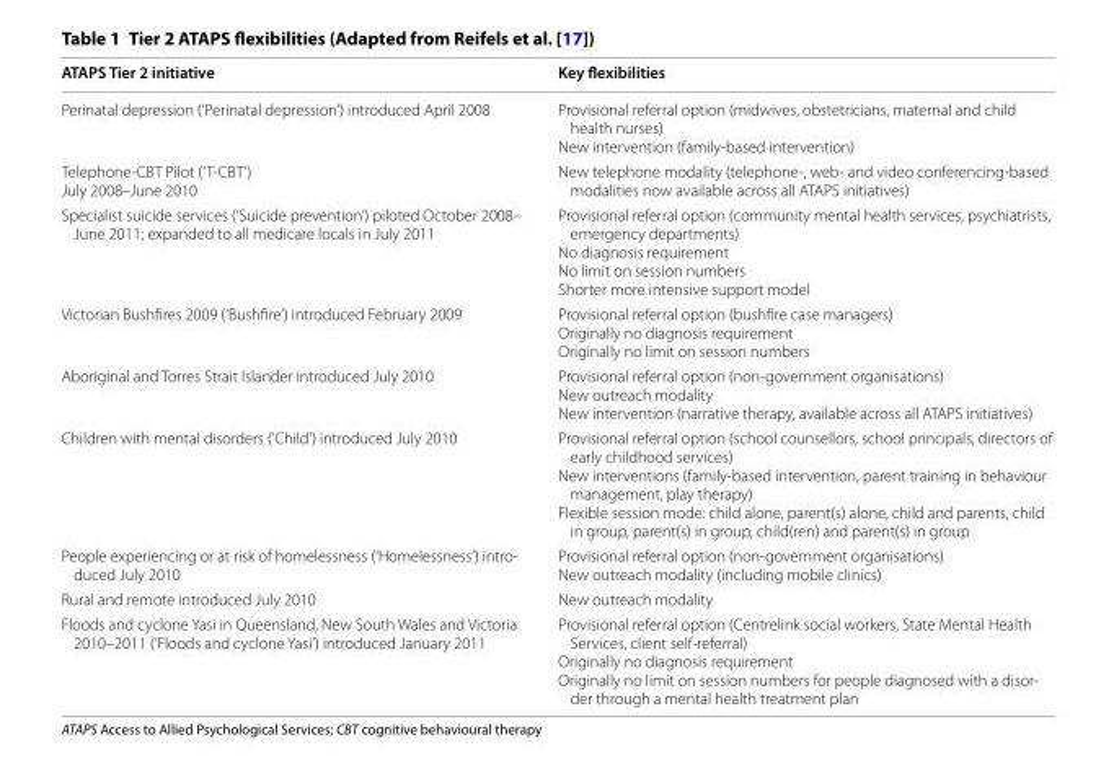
<table><thead><tr><td>ATAPS Tier 2 initiative</td><td>Key flexibilities</td></tr></thead><tbody><tr><td>Perinatal depression (‘Perinatal depression’) introduced April 2008</td><td>Provisional referral option (midwives, obstetricians, maternal and child health nurses) New intervention (family-based intervention)</td></tr><tr><td>Telephone-CBT Pilot (‘T-CBT’) July 2008–June 2010</td><td>New telephone modality (telephone-, web- and video conferencing-based modalities now available across all ATAPS initiatives)</td></tr><tr><td>Specialist suicide services (‘Suicide prevention’) piloted October 2008– June 2011; expanded to all medicare locals in July 2011</td><td>Provisional referral option (community mental health services, psychiatrists, emergency departments) No diagnosis requirement No limit on session numbers Shorter more intensive support model</td></tr><tr><td>Victorian Bushfires 2009 (‘Bushfire’) introduced February 2009</td><td>Provisional referral option (bushfire case managers) Originally no diagnosis requirement Originally no limit on session numbers</td></tr><tr><td>Aboriginal and Torres Strait Islander introduced July 2010</td><td>Provisional referral option (non-government organisations) New outreach modality New intervention (narrative therapy, available across all ATAPS initiatives)</td></tr><tr><td>Children with mental disorders (‘Child’) introduced July 2010</td><td>Provisional referral option (school counsellors, school principals, directors of early childhood services) New interventions (family-based intervention, parent training in behaviour management, play therapy) Flexible session mode: child alone, parent(s) alone, child and parents, child in group, parent(s) in group, child(ren) and parent(s) in group</td></tr><tr><td>People experiencing or at risk of homelessness (‘Homelessness’) intro- duced July 2010</td><td>Provisional referral option (non-government organisations) New outreach modality (including mobile clinics)</td></tr><tr><td>Rural and remote introduced July 2010</td><td>New outreach modality</td></tr><tr><td>Floods and cyclone Yasi in Queensland, New South Wales and Victoria 2010–2011 (‘Floods and cyclone Yasi’) introduced January 2011</td><td>Provisional referral option (Centrelink social workers, State Mental Health Services, client self-referral) Originally no diagnosis requirement Originally no limit on session numbers for people diagnosed with a disor- der through a mental health treatment plan</td></tr></tbody></table>